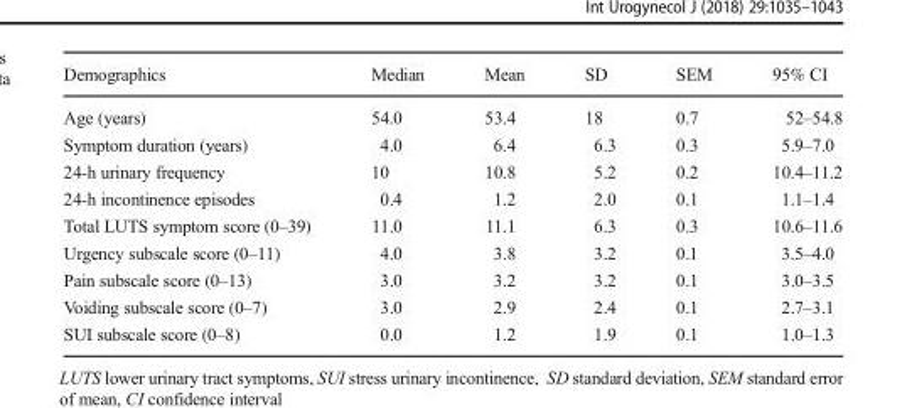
<table><thead><tr><td>Demographics</td><td>Median</td><td>Mean</td><td>SD</td><td>SEM</td><td>95% CI</td></tr></thead><tbody><tr><td>Age (years)</td><td>54.0</td><td>53.4</td><td>18</td><td>0.7</td><td>52–54.8</td></tr><tr><td>Symptom duration (years)</td><td>4.0</td><td>6.4</td><td>6.3</td><td>0.3</td><td>5.9–7.0</td></tr><tr><td>24-h urinary frequency</td><td>10</td><td>10.8</td><td>5.2</td><td>0.2</td><td>10.4–11.2</td></tr><tr><td>24-h incontinence episodes</td><td>0.4</td><td>1.2</td><td>2.0</td><td>0.1</td><td>1.1–1.4</td></tr><tr><td>Total LUTS symptom score (0–39)</td><td>11.0</td><td>11.1</td><td>6.3</td><td>0.3</td><td>10.6–11.6</td></tr><tr><td>Urgency subscale score (0–11)</td><td>4.0</td><td>3.8</td><td>3.2</td><td>0.1</td><td>3.5–4.0</td></tr><tr><td>Pain subscale score (0–13)</td><td>3.0</td><td>3.2</td><td>3.2</td><td>0.1</td><td>3.0–3.5</td></tr><tr><td>Voiding subscale score (0–7)</td><td>3.0</td><td>2.9</td><td>2.4</td><td>0.1</td><td>2.7–3.1</td></tr><tr><td>SUI subscale score (0–8)</td><td>0.0</td><td>1.2</td><td>1.9</td><td>0.1</td><td>1.0–1.3</td></tr></tbody></table>